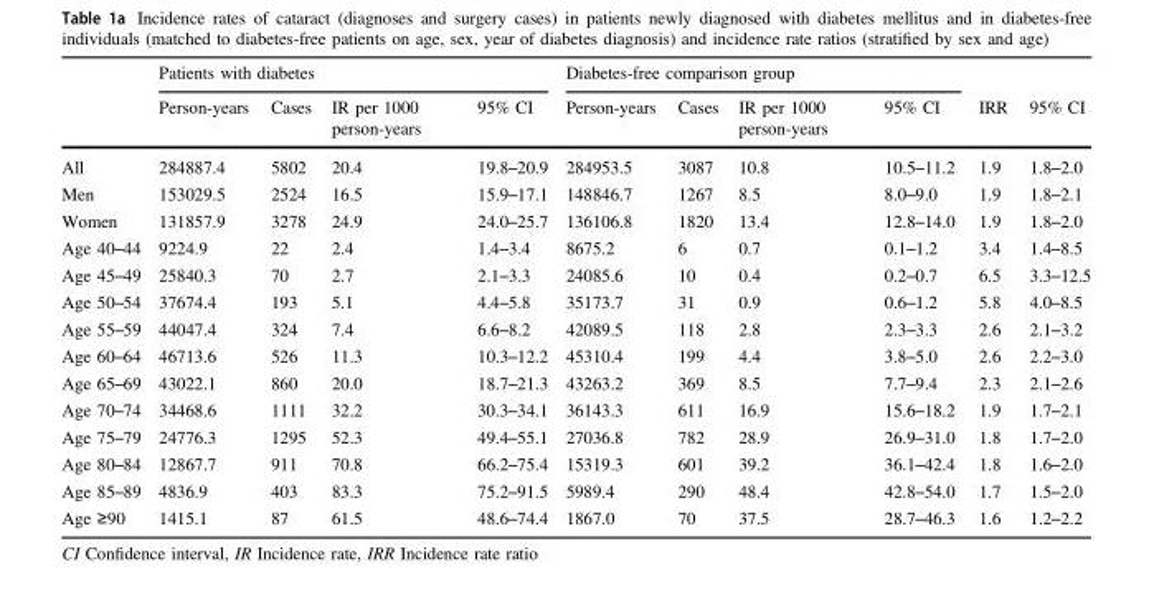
<table><thead><tr><td rowspan="2"></td><td colspan="4">Patients with diabetes</td><td colspan="4">Diabetes-free comparison group</td><td rowspan="2">IRR</td><td rowspan="2">95% CI</td></tr><tr><td>Person-years</td><td>Cases</td><td>IR per 1000 person-years</td><td>95% CI</td><td>Person-years</td><td>Cases</td><td>IR per 1000 person-years</td><td>95% CI</td></tr></thead><tbody><tr><td>All</td><td>284887.4</td><td>5802</td><td>20.4</td><td>19.8–20.9</td><td>284953.5</td><td>3087</td><td>10.8</td><td>10.5–11.2</td><td>1.9</td><td>1.8–2.0</td></tr><tr><td>Men</td><td>153029.5</td><td>2524</td><td>16.5</td><td>15.9–17.1</td><td>148846.7</td><td>1267</td><td>8.5</td><td>8.0–9.0</td><td>1.9</td><td>1.8–2.1</td></tr><tr><td>Women</td><td>131857.9</td><td>3278</td><td>24.9</td><td>24.0–25.7</td><td>136106.8</td><td>1820</td><td>13.4</td><td>12.8–14.0</td><td>1.9</td><td>1.8–2.0</td></tr><tr><td>Age 40–44</td><td>9224.9</td><td>22</td><td>2.4</td><td>1.4–3.4</td><td>8675.2</td><td>6</td><td>0.7</td><td>0.1–1.2</td><td>3.4</td><td>1.4–8.5</td></tr><tr><td>Age 45–49</td><td>25840.3</td><td>70</td><td>2.7</td><td>2.1–3.3</td><td>24085.6</td><td>10</td><td>0.4</td><td>0.2–0.7</td><td>6.5</td><td>3.3–12.5</td></tr><tr><td>Age 50–54</td><td>37674.4</td><td>193</td><td>5.1</td><td>4.4–5.8</td><td>35173.7</td><td>31</td><td>0.9</td><td>0.6–1.2</td><td>5.8</td><td>4.0–8.5</td></tr><tr><td>Age 55–59</td><td>44047.4</td><td>324</td><td>7.4</td><td>6.6–8.2</td><td>42089.5</td><td>118</td><td>2.8</td><td>2.3–3.3</td><td>2.6</td><td>2.1–3.2</td></tr><tr><td>Age 60–64</td><td>46713.6</td><td>526</td><td>11.3</td><td>10.3–12.2</td><td>45310.4</td><td>199</td><td>4.4</td><td>3.8–5.0</td><td>2.6</td><td>2.2–3.0</td></tr><tr><td>Age 65–69</td><td>43022.1</td><td>860</td><td>20.0</td><td>18.7–21.3</td><td>43263.2</td><td>369</td><td>8.5</td><td>7.7–9.4</td><td>2.3</td><td>2.1–2.6</td></tr><tr><td>Age 70–74</td><td>34468.6</td><td>1111</td><td>32.2</td><td>30.3–34.1</td><td>36143.3</td><td>611</td><td>16.9</td><td>15.6–18.2</td><td>1.9</td><td>1.7–2.1</td></tr><tr><td>Age 75–79</td><td>24776.3</td><td>1295</td><td>52.3</td><td>49.4–55.1</td><td>27036.8</td><td>782</td><td>28.9</td><td>26.9–31.0</td><td>1.8</td><td>1.7–2.0</td></tr><tr><td>Age 80–84</td><td>12867.7</td><td>911</td><td>70.8</td><td>66.2–75.4</td><td>15319.3</td><td>601</td><td>39.2</td><td>36.1–42.4</td><td>1.8</td><td>1.6–2.0</td></tr><tr><td>Age 85–89</td><td>4836.9</td><td>403</td><td>83.3</td><td>75.2–91.5</td><td>5989.4</td><td>290</td><td>48.4</td><td>42.8–54.0</td><td>1.7</td><td>1.5–2.0</td></tr><tr><td>Age ≥90</td><td>1415.1</td><td>87</td><td>61.5</td><td>48.6–74.4</td><td>1867.0</td><td>70</td><td>37.5</td><td>28.7–46.3</td><td>1.6</td><td>1.2–2.2</td></tr></tbody></table>